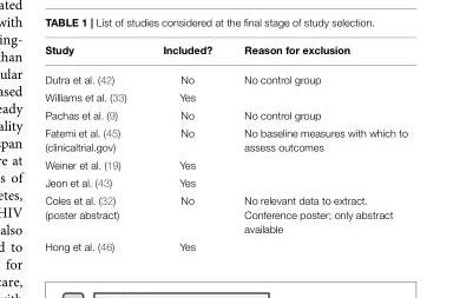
<table><thead><tr><td>Study</td><td>Included?</td><td>Reason for exclusion</td></tr></thead><tbody><tr><td>Dutra et al. (42)</td><td>No</td><td>No control group</td></tr><tr><td>Williams et al. (33)</td><td>Yes</td><td></td></tr><tr><td>Pachas et al. (9)</td><td>No</td><td>No control group</td></tr><tr><td>Fatemi et al. (45) (clinicaltrial.gov)</td><td>No</td><td>No baseline measures with which to assess outcomes</td></tr><tr><td>Weiner et al. (19)</td><td>Yes</td><td></td></tr><tr><td>Jeon et al. (43)</td><td>Yes</td><td></td></tr><tr><td>Coles et al. (32) (poster abstract)</td><td>No</td><td>No relevant data to extract. Conference poster; only abstract available</td></tr><tr><td>Hong et al. (46)</td><td>Yes</td><td></td></tr></tbody></table>